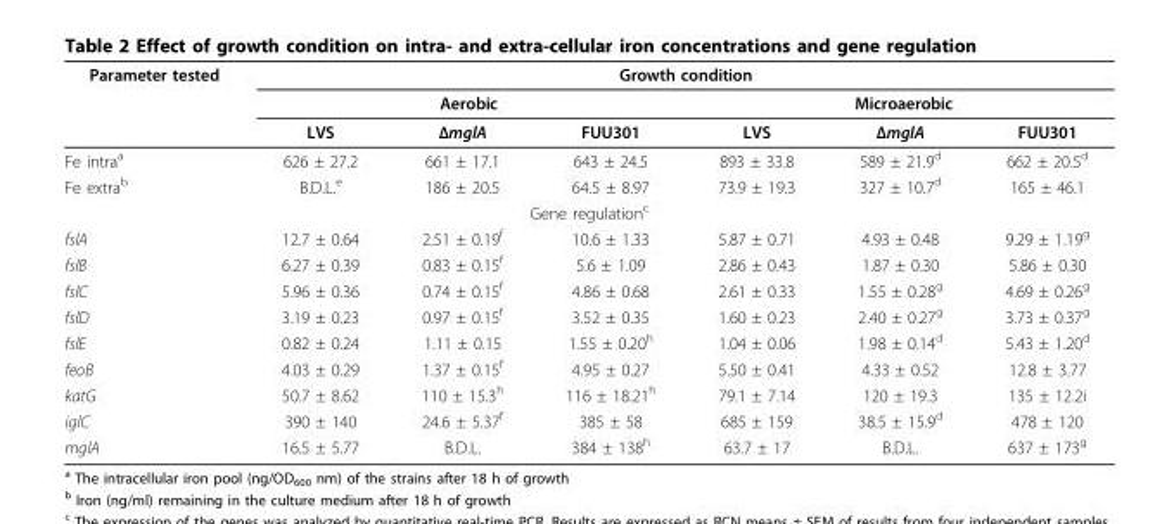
<table><thead><tr><td rowspan="3">Parameter tested</td><td colspan="6">Growth condition</td></tr><tr><td colspan="3">Aerobic</td><td colspan="3">Microaerobic</td></tr><tr><td>LVS</td><td>ΔmglA</td><td>FUU301</td><td>LVS</td><td>ΔmglA</td><td>FUU301</td></tr></thead><tbody><tr><td>Fe intra<sup>a</sup></td><td>626 ± 27.2</td><td>661 ± 17.1</td><td>643 ± 24.5</td><td>893 ± 33.8</td><td>589 ± 21.9<sup>d</sup></td><td>662 ± 20.5<sup>d</sup></td></tr><tr><td>Fe extra<sup>b</sup></td><td>B.D.L.<sup>e</sup></td><td>186 ± 20.5</td><td>64.5 ± 8.97</td><td>73.9 ± 19.3</td><td>327 ± 10.7<sup>d</sup></td><td>165 ± 46.1</td></tr><tr><td colspan="7">Gene regulation<sup>c</sup></td></tr><tr><td>fslA</td><td>12.7 ± 0.64</td><td>2.51 ± 0.19<sup>f</sup></td><td>10.6 ± 1.33</td><td>5.87 ± 0.71</td><td>4.93 ± 0.48</td><td>9.29 ± 1.19<sup>g</sup></td></tr><tr><td>fslB</td><td>6.27 ± 0.39</td><td>0.83 ± 0.15<sup>f</sup></td><td>5.6 ± 1.09</td><td>2.86 ± 0.43</td><td>1.87 ± 0.30</td><td>5.86 ± 0.30</td></tr><tr><td>fslC</td><td>5.96 ± 0.36</td><td>0.74 ± 0.15<sup>f</sup></td><td>4.86 ± 0.68</td><td>2.61 ± 0.33</td><td>1.55 ± 0.28<sup>g</sup></td><td>4.69 ± 0.26<sup>g</sup></td></tr><tr><td>fslD</td><td>3.19 ± 0.23</td><td>0.97 ± 0.15<sup>f</sup></td><td>3.52 ± 0.35</td><td>1.60 ± 0.23</td><td>2.40 ± 0.27<sup>g</sup></td><td>3.73 ± 0.37<sup>g</sup></td></tr><tr><td>fslE</td><td>0.82 ± 0.24</td><td>1.11 ± 0.15</td><td>1.55 ± 0.20<sup>h</sup></td><td>1.04 ± 0.06</td><td>1.98 ± 0.14<sup>d</sup></td><td>5.43 ± 1.20<sup>d</sup></td></tr><tr><td>feoB</td><td>4.03 ± 0.29</td><td>1.37 ± 0.15<sup>f</sup></td><td>4.95 ± 0.27</td><td>5.50 ± 0.41</td><td>4.33 ± 0.52</td><td>12.8 ± 3.77</td></tr><tr><td>katG</td><td>50.7 ± 8.62</td><td>110 ± 15.3<sup>h</sup></td><td>116 ± 18.21<sup>h</sup></td><td>79.1 ± 7.14</td><td>120 ± 19.3</td><td>135 ± 12.2i</td></tr><tr><td>iglC</td><td>390 ± 140</td><td>24.6 ± 5.37<sup>f</sup></td><td>385 ± 58</td><td>685 ± 159</td><td>38.5 ± 15.9<sup>d</sup></td><td>478 ± 120</td></tr><tr><td>mglA</td><td>16.5 ± 5.77</td><td>B.D.L.</td><td>384 ± 138<sup>h</sup></td><td>63.7 ± 17</td><td>B.D.L.</td><td>637 ± 173<sup>g</sup></td></tr></tbody></table>